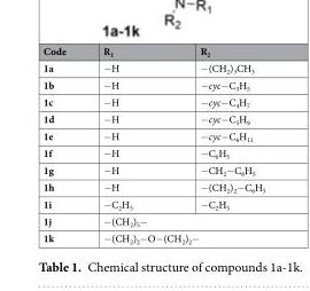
<table><tbody><tr><td>Code</td><td>R<sub>1</sub></td><td>R<sub>2</sub></td></tr><tr><td>1a</td><td>−H</td><td>−(CH<sub>2</sub>)<sub>3</sub>CH<sub>3</sub></td></tr><tr><td>1b</td><td>−H</td><td>−cyc−C<sub>3</sub>H<sub>5</sub></td></tr><tr><td>1c</td><td>−H</td><td>−cyc−C<sub>4</sub>H<sub>7</sub></td></tr><tr><td>1d</td><td>−H</td><td>−cyc−C<sub>5</sub>H<sub>9</sub></td></tr><tr><td>1e</td><td>−H</td><td>−cyc−C<sub>6</sub>H<sub>11</sub></td></tr><tr><td>1f</td><td>−H</td><td>−C<sub>6</sub>H<sub>5</sub></td></tr><tr><td>1g</td><td>−H</td><td>−CH<sub>2</sub>−C<sub>6</sub>H<sub>5</sub></td></tr><tr><td>1h</td><td>−H</td><td>−(CH<sub>2</sub>)<sub>2</sub>−C<sub>6</sub>H<sub>5</sub></td></tr><tr><td>1i</td><td>−C<sub>2</sub>H<sub>5</sub></td><td>−C<sub>2</sub>H<sub>5</sub></td></tr><tr><td>1j</td><td colspan="2">−(CH<sub>2</sub>)<sub>5</sub>−</td></tr><tr><td>1k</td><td colspan="2">−(CH<sub>2</sub>)<sub>2</sub>−O−(CH<sub>2</sub>)<sub>2</sub>−</td></tr></tbody></table>